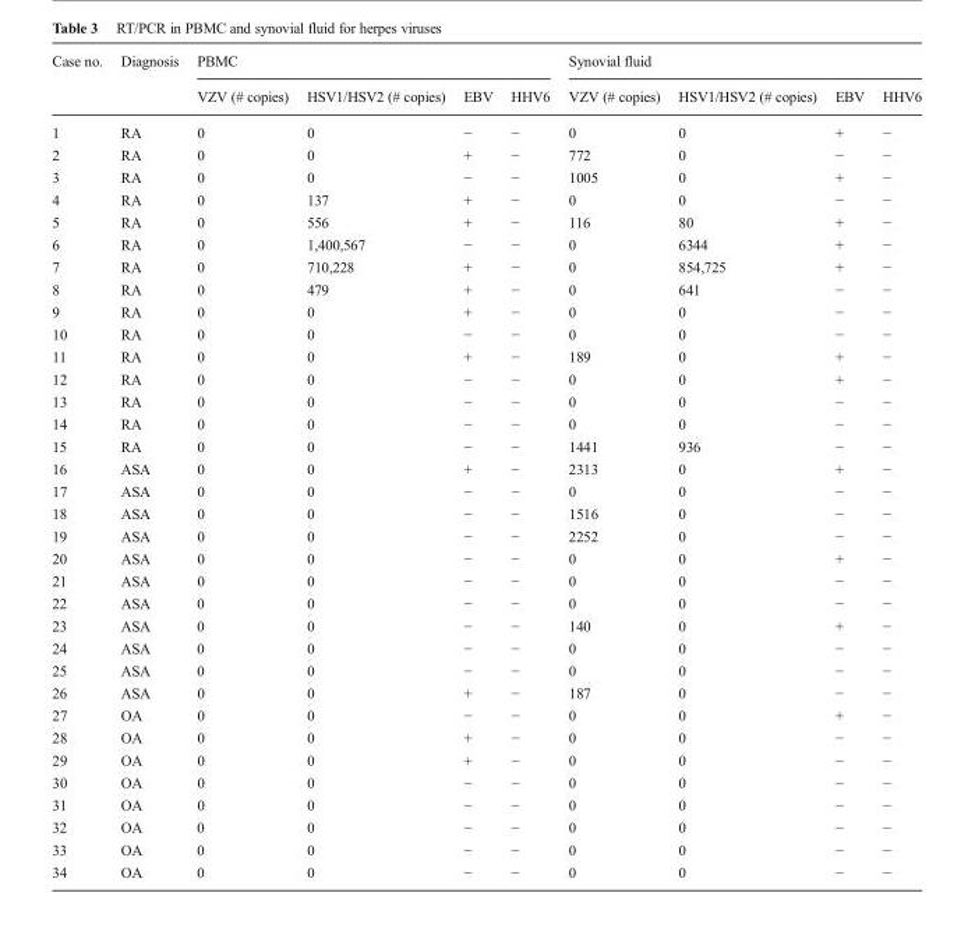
<table><thead><tr><td rowspan="2">Case no.</td><td rowspan="2">Diagnosis</td><td colspan="4">PBMC</td><td colspan="4">Synovial fluid</td></tr><tr><td>VZV (# copies)</td><td>HSV1/HSV2 (# copies)</td><td>EBV</td><td>HHV6</td><td>VZV (# copies)</td><td>HSV1/HSV2 (# copies)</td><td>EBV</td><td>HHV6</td></tr></thead><tbody><tr><td>1</td><td>RA</td><td>0</td><td>0</td><td>−</td><td>−</td><td>0</td><td>0</td><td>+</td><td>−</td></tr><tr><td>2</td><td>RA</td><td>0</td><td>0</td><td>+</td><td>−</td><td>772</td><td>0</td><td>−</td><td>−</td></tr><tr><td>3</td><td>RA</td><td>0</td><td>0</td><td>−</td><td>−</td><td>1005</td><td>0</td><td>+</td><td>−</td></tr><tr><td>4</td><td>RA</td><td>0</td><td>137</td><td>+</td><td>−</td><td>0</td><td>0</td><td>−</td><td>−</td></tr><tr><td>5</td><td>RA</td><td>0</td><td>556</td><td>+</td><td>−</td><td>116</td><td>80</td><td>+</td><td>−</td></tr><tr><td>6</td><td>RA</td><td>0</td><td>1,400,567</td><td>−</td><td>−</td><td>0</td><td>6344</td><td>+</td><td>−</td></tr><tr><td>7</td><td>RA</td><td>0</td><td>710,228</td><td>+</td><td>−</td><td>0</td><td>854,725</td><td>+</td><td>−</td></tr><tr><td>8</td><td>RA</td><td>0</td><td>479</td><td>+</td><td>−</td><td>0</td><td>641</td><td>−</td><td>−</td></tr><tr><td>9</td><td>RA</td><td>0</td><td>0</td><td>+</td><td>−</td><td>0</td><td>0</td><td>−</td><td>−</td></tr><tr><td>10</td><td>RA</td><td>0</td><td>0</td><td>−</td><td>−</td><td>0</td><td>0</td><td>−</td><td>−</td></tr><tr><td>11</td><td>RA</td><td>0</td><td>0</td><td>+</td><td>−</td><td>189</td><td>0</td><td>+</td><td>−</td></tr><tr><td>12</td><td>RA</td><td>0</td><td>0</td><td>−</td><td>−</td><td>0</td><td>0</td><td>+</td><td>−</td></tr><tr><td>13</td><td>RA</td><td>0</td><td>0</td><td>−</td><td>−</td><td>0</td><td>0</td><td>−</td><td>−</td></tr><tr><td>14</td><td>RA</td><td>0</td><td>0</td><td>−</td><td>−</td><td>0</td><td>0</td><td>−</td><td>−</td></tr><tr><td>15</td><td>RA</td><td>0</td><td>0</td><td>−</td><td>−</td><td>1441</td><td>936</td><td>−</td><td>−</td></tr><tr><td>16</td><td>ASA</td><td>0</td><td>0</td><td>+</td><td>−</td><td>2313</td><td>0</td><td>+</td><td>−</td></tr><tr><td>17</td><td>ASA</td><td>0</td><td>0</td><td>−</td><td>−</td><td>0</td><td>0</td><td>−</td><td>−</td></tr><tr><td>18</td><td>ASA</td><td>0</td><td>0</td><td>−</td><td>−</td><td>1516</td><td>0</td><td>−</td><td>−</td></tr><tr><td>19</td><td>ASA</td><td>0</td><td>0</td><td>−</td><td>−</td><td>2252</td><td>0</td><td>−</td><td>−</td></tr><tr><td>20</td><td>ASA</td><td>0</td><td>0</td><td>−</td><td>−</td><td>0</td><td>0</td><td>+</td><td>−</td></tr><tr><td>21</td><td>ASA</td><td>0</td><td>0</td><td>−</td><td>−</td><td>0</td><td>0</td><td>−</td><td>−</td></tr><tr><td>22</td><td>ASA</td><td>0</td><td>0</td><td>−</td><td>−</td><td>0</td><td>0</td><td>−</td><td>−</td></tr><tr><td>23</td><td>ASA</td><td>0</td><td>0</td><td>−</td><td>−</td><td>140</td><td>0</td><td>+</td><td>−</td></tr><tr><td>24</td><td>ASA</td><td>0</td><td>0</td><td>−</td><td>−</td><td>0</td><td>0</td><td>−</td><td>−</td></tr><tr><td>25</td><td>ASA</td><td>0</td><td>0</td><td>−</td><td>−</td><td>0</td><td>0</td><td>−</td><td>−</td></tr><tr><td>26</td><td>ASA</td><td>0</td><td>0</td><td>+</td><td>−</td><td>187</td><td>0</td><td>−</td><td>−</td></tr><tr><td>27</td><td>OA</td><td>0</td><td>0</td><td>−</td><td>−</td><td>0</td><td>0</td><td>+</td><td>−</td></tr><tr><td>28</td><td>OA</td><td>0</td><td>0</td><td>+</td><td>−</td><td>0</td><td>0</td><td>−</td><td>−</td></tr><tr><td>29</td><td>OA</td><td>0</td><td>0</td><td>+</td><td>−</td><td>0</td><td>0</td><td>−</td><td>−</td></tr><tr><td>30</td><td>OA</td><td>0</td><td>0</td><td>−</td><td>−</td><td>0</td><td>0</td><td>−</td><td>−</td></tr><tr><td>31</td><td>OA</td><td>0</td><td>0</td><td>−</td><td>−</td><td>0</td><td>0</td><td>−</td><td>−</td></tr><tr><td>32</td><td>OA</td><td>0</td><td>0</td><td>−</td><td>−</td><td>0</td><td>0</td><td>−</td><td>−</td></tr><tr><td>33</td><td>OA</td><td>0</td><td>0</td><td>−</td><td>−</td><td>0</td><td>0</td><td>−</td><td>−</td></tr><tr><td>34</td><td>OA</td><td>0</td><td>0</td><td>−</td><td>−</td><td>0</td><td>0</td><td>−</td><td>−</td></tr></tbody></table>